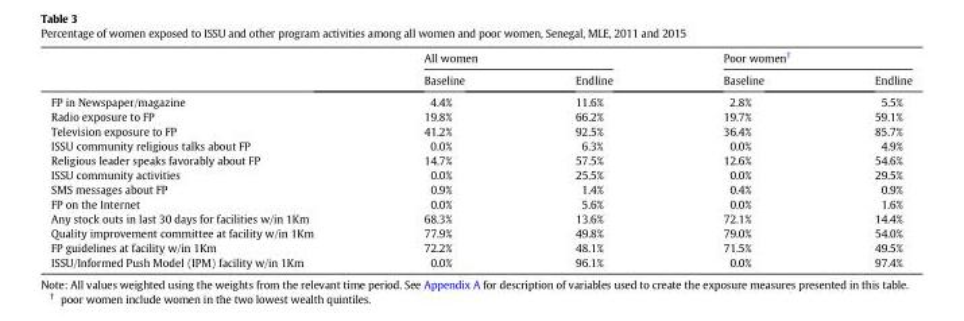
<table><thead><tr><td rowspan="2"></td><td colspan="2">All women</td><td colspan="2">Poor women†</td></tr><tr><td>Baseline</td><td>Endline</td><td>Baseline</td><td>Endline</td></tr></thead><tbody><tr><td>FP in Newspaper/magazine</td><td>4.4%</td><td>11.6%</td><td>2.8%</td><td>5.5%</td></tr><tr><td>Radio exposure to FP</td><td>19.8%</td><td>66.2%</td><td>19.7%</td><td>59.1%</td></tr><tr><td>Television exposure to FP</td><td>41.2%</td><td>92.5%</td><td>36.4%</td><td>85.7%</td></tr><tr><td>ISSU community religious talks about FP</td><td>0.0%</td><td>6.3%</td><td>0.0%</td><td>4.9%</td></tr><tr><td>Religious leader speaks favorably about FP</td><td>14.7%</td><td>57.5%</td><td>12.6%</td><td>54.6%</td></tr><tr><td>ISSU community activities</td><td>0.0%</td><td>25.5%</td><td>0.0%</td><td>29.5%</td></tr><tr><td>SMS messages about FP</td><td>0.9%</td><td>1.4%</td><td>0.4%</td><td>0.9%</td></tr><tr><td>FP on the Internet</td><td>0.0%</td><td>5.6%</td><td>0.0%</td><td>1.6%</td></tr><tr><td>Any stock outs in last 30 days for facilities w/in 1Km</td><td>68.3%</td><td>13.6%</td><td>72.1%</td><td>14.4%</td></tr><tr><td>Quality improvement committee at facility w/in 1Km</td><td>77.9%</td><td>49.8%</td><td>79.0%</td><td>54.0%</td></tr><tr><td>FP guidelines at facility w/in 1Km</td><td>72.2%</td><td>48.1%</td><td>71.5%</td><td>49.5%</td></tr><tr><td>ISSU/Informed Push Model (IPM) facility w/in 1Km</td><td>0.0%</td><td>96.1%</td><td>0.0%</td><td>97.4%</td></tr></tbody></table>